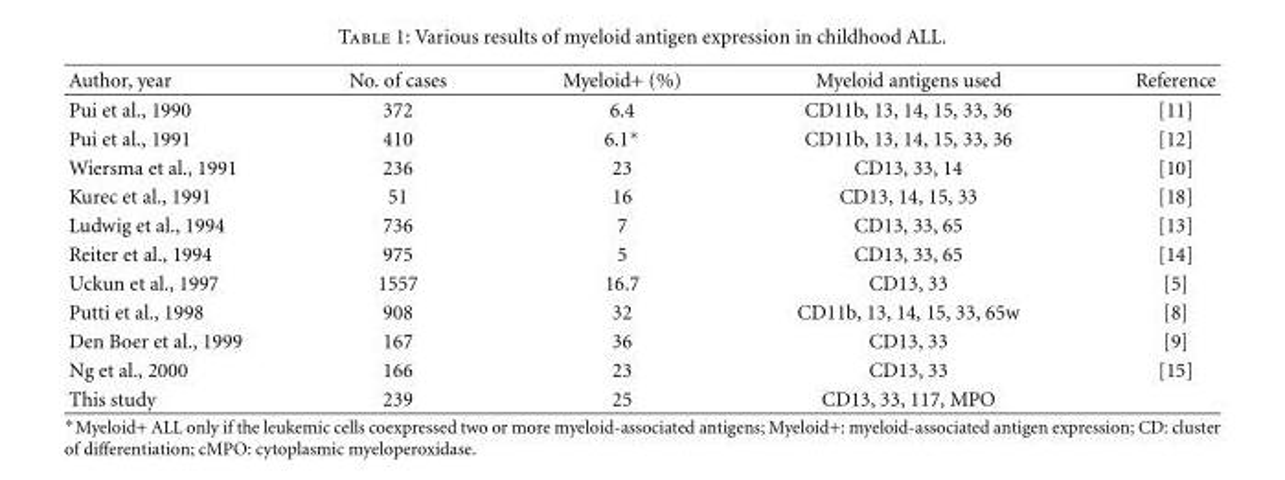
<table><thead><tr><td>Author, year</td><td>No. of cases</td><td>Myeloid+ (%)</td><td>Myeloid antigens used</td><td>Reference</td></tr></thead><tbody><tr><td>Pui et al., 1990</td><td>372</td><td>6.4</td><td>CD11b, 13, 14, 15, 33, 36</td><td>[11]</td></tr><tr><td>Pui et al., 1991</td><td>410</td><td>6.1∗</td><td>CD11b, 13, 14, 15, 33, 36</td><td>[12]</td></tr><tr><td>Wiersma et al., 1991</td><td>236</td><td>23</td><td>CD13, 33, 14</td><td>[10]</td></tr><tr><td>Kurec et al., 1991</td><td>51</td><td>16</td><td>CD13, 14, 15, 33</td><td>[18]</td></tr><tr><td>Ludwig et al., 1994</td><td>736</td><td>7</td><td>CD13, 33, 65</td><td>[13]</td></tr><tr><td>Reiter et al., 1994</td><td>975</td><td>5</td><td>CD13, 33, 65</td><td>[14]</td></tr><tr><td>Uckun et al., 1997</td><td>1557</td><td>16.7</td><td>CD13, 33</td><td>[5]</td></tr><tr><td>Putti et al., 1998</td><td>908</td><td>32</td><td>CD11b, 13, 14, 15, 33, 65w</td><td>[8]</td></tr><tr><td>Den Boer et al., 1999</td><td>167</td><td>36</td><td>CD13, 33</td><td>[9]</td></tr><tr><td>Ng et al., 2000</td><td>166</td><td>23</td><td>CD13, 33</td><td>[15]</td></tr><tr><td>This study</td><td>239</td><td>25</td><td>CD13, 33, 117, MPO</td><td></td></tr></tbody></table>